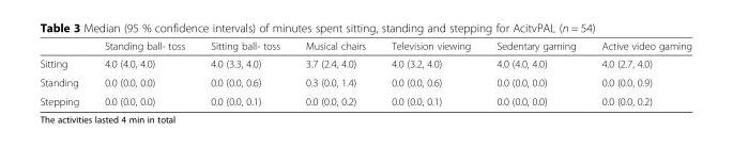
<table><thead><tr><td></td><td>Standing ball- toss</td><td>Sitting ball- toss</td><td>Musical chairs</td><td>Television viewing</td><td>Sedentary gaming</td><td>Active video gaming</td></tr></thead><tbody><tr><td>Sitting</td><td>4.0 (4.0, 4.0)</td><td>4.0 (3.3, 4.0)</td><td>3.7 (2.4, 4.0)</td><td>4.0 (3.2, 4.0)</td><td>4.0 (4.0, 4.0)</td><td>4.0 (2.7, 4.0)</td></tr><tr><td>Standing</td><td>0.0 (0.0, 0.0)</td><td>0.0 (0.0, 0.6)</td><td>0.3 (0.0, 1.4)</td><td>0.0 (0.0, 0.6)</td><td>0.0 (0.0, 0.0)</td><td>0.0 (0.0, 0.9)</td></tr><tr><td>Stepping</td><td>0.0 (0.0, 0.0)</td><td>0.0 (0.0, 0.1)</td><td>0.0 (0.0, 0.2)</td><td>0.0 (0.0, 0.1)</td><td>0.0 (0.0, 0.0)</td><td>0.0 (0.0, 0.2)</td></tr></tbody></table>